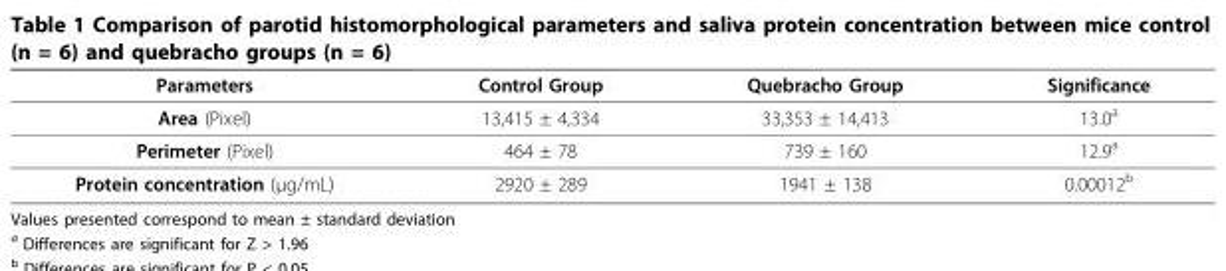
<table><thead><tr><td>Parameters</td><td>Control Group</td><td>Quebracho Group</td><td>Significance</td></tr></thead><tbody><tr><td>Area (Pixel)</td><td>13,415 ± 4,334</td><td>33,353 ± 14,413</td><td>13.0<sup>a</sup></td></tr><tr><td>Perimeter (Pixel)</td><td>464 ± 78</td><td>739 ± 160</td><td>12.9<sup>a</sup></td></tr><tr><td>Protein concentration (μg/mL)</td><td>2920 ± 289</td><td>1941 ± 138</td><td>0.00012<sup>b</sup></td></tr></tbody></table>